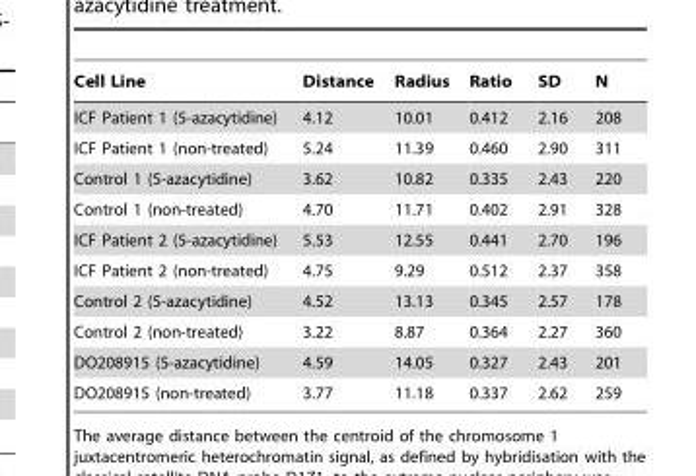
<table><thead><tr><td>Cell Line</td><td>Distance</td><td>Radius</td><td>Ratio</td><td>SD</td><td>N</td></tr></thead><tbody><tr><td>ICF Patient 1 (5-azacytidine)</td><td>4.12</td><td>10.01</td><td>0.412</td><td>2.16</td><td>208</td></tr><tr><td>ICF Patient 1 (non-treated)</td><td>5.24</td><td>11.39</td><td>0.460</td><td>2.90</td><td>311</td></tr><tr><td>Control 1 (5-azacytidine)</td><td>3.62</td><td>10.82</td><td>0.335</td><td>2.43</td><td>220</td></tr><tr><td>Control 1 (non-treated)</td><td>4.70</td><td>11.71</td><td>0.402</td><td>2.91</td><td>328</td></tr><tr><td>ICF Patient 2 (5-azacytidine)</td><td>5.53</td><td>12.55</td><td>0.441</td><td>2.70</td><td>196</td></tr><tr><td>ICF Patient 2 (non-treated)</td><td>4.75</td><td>9.29</td><td>0.512</td><td>2.37</td><td>358</td></tr><tr><td>Control 2 (5-azacytidine)</td><td>4.52</td><td>13.13</td><td>0.345</td><td>2.57</td><td>178</td></tr><tr><td>Control 2 (non-treated)</td><td>3.22</td><td>8.87</td><td>0.364</td><td>2.27</td><td>360</td></tr><tr><td>DO208915 (5-azacytidine)</td><td>4.59</td><td>14.05</td><td>0.327</td><td>2.43</td><td>201</td></tr><tr><td>DO208915 (non-treated)</td><td>3.77</td><td>11.18</td><td>0.337</td><td>2.62</td><td>259</td></tr></tbody></table>